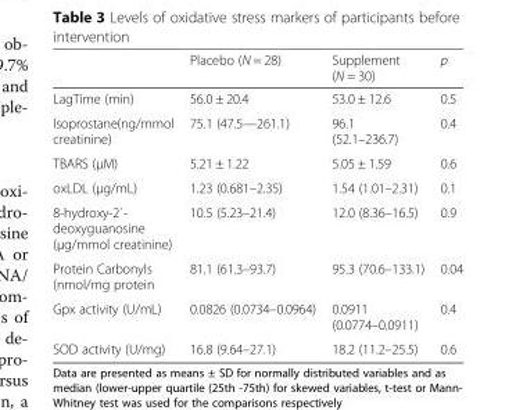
<table><thead><tr><td></td><td>Placebo (N = 28)</td><td>Supplement (N = 30)</td><td>p</td></tr></thead><tbody><tr><td>LagTime (min)</td><td>56.0 ± 20.4</td><td>53.0 ± 12.6</td><td>0.5</td></tr><tr><td>Isoprostane(ng/mmol creatinine)</td><td>75.1 (47.5—261.1)</td><td>96.1 (52.1–236.7)</td><td>0.4</td></tr><tr><td>TBARS (μM)</td><td>5.21 ± 1.22</td><td>5.05 ± 1.59</td><td>0.6</td></tr><tr><td>oxLDL (μg/mL)</td><td>1.23 (0.681–2.35)</td><td>1.54 (1.01–2.31)</td><td>0.1</td></tr><tr><td>8-hydroxy-2΄- deoxyguanosine (μg/mmol creatinine)</td><td>10.5 (5.23–21.4)</td><td>12.0 (8.36–16.5)</td><td>0.9</td></tr><tr><td>Protein Carbonyls (nmol/mg protein</td><td>81.1 (61.3–93.7)</td><td>95.3 (70.6–133.1)</td><td>0.04</td></tr><tr><td>Gpx activity (U/mL)</td><td>0.0826 (0.0734–0.0964)</td><td>0.0911 (0.0774–0.0911)</td><td>0.4</td></tr><tr><td>SOD activity (U/mg)</td><td>16.8 (9.64–27.1)</td><td>18.2 (11.2–25.5)</td><td>0.6</td></tr></tbody></table>